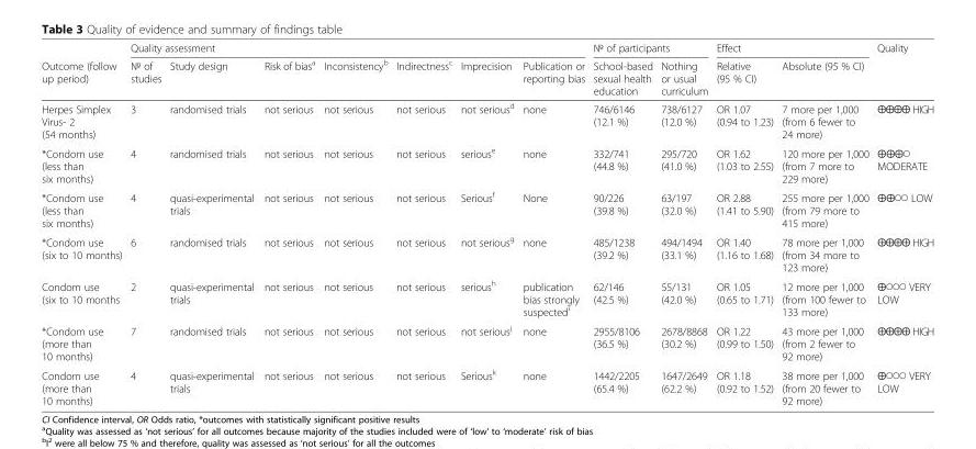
<table><thead><tr><td rowspan="2">Outcome (follow up period)</td><td colspan="7">Quality assessment</td><td colspan="2">№ of participants</td><td colspan="2">Effect</td><td rowspan="2">Quality</td></tr><tr><td>№ of studies</td><td>Study design</td><td>Risk of bias<sup>a</sup></td><td>Inconsistency<sup>b</sup></td><td>Indirectness<sup>c</sup></td><td>Imprecision</td><td>Publication or reporting bias</td><td>School-based sexual health education</td><td>Nothing or usual curriculum</td><td>Relative (95 % CI)</td><td>Absolute (95 % CI)</td></tr></thead><tbody><tr><td>Herpes Simplex Virus- 2 (54 months)</td><td>3</td><td>randomised trials</td><td>not serious</td><td>not serious</td><td>not serious</td><td>not serious<sup>d</sup></td><td>none</td><td>746/6146 (12.1 %)</td><td>738/6127 (12.0 %)</td><td>OR 1.07 (0.94 to 1.23)</td><td>7 more per 1,000 (from 6 fewer to 24 more)</td><td>⨁⨁⨁⨁ HIGH</td></tr><tr><td>*Condom use (less than six months)</td><td>4</td><td>randomised trials</td><td>not serious</td><td>not serious</td><td>not serious</td><td>serious<sup>e</sup></td><td>none</td><td>332/741 (44.8 %)</td><td>295/720 (41.0 %)</td><td>OR 1.62 (1.03 to 2.55)</td><td>120 more per 1,000 (from 7 more to 229 more)</td><td>⨁⨁⨁◯ MODERATE</td></tr><tr><td>*Condom use (less than six months)</td><td>4</td><td>quasi-experimental trials</td><td>not serious</td><td>not serious</td><td>not serious</td><td>Serious<sup>f</sup></td><td>None</td><td>90/226 (39.8 %)</td><td>63/197 (32.0 %)</td><td>OR 2.88 (1.41 to 5.90)</td><td>255 more per 1,000 (from 79 more to 415 more)</td><td>⨁⨁◯◯ LOW</td></tr><tr><td>*Condom use (six to 10 months)</td><td>6</td><td>randomised trials</td><td>not serious</td><td>not serious</td><td>not serious</td><td>not serious<sup>g</sup></td><td>none</td><td>485/1238 (39.2 %)</td><td>494/1494 (33.1 %)</td><td>OR 1.40 (1.16 to 1.68)</td><td>78 more per 1,000 (from 34 more to 123 more)</td><td>⨁⨁⨁⨁ HIGH</td></tr><tr><td>Condom use (six to 10 months</td><td>2</td><td>quasi-experimental trials</td><td>not serious</td><td>not serious</td><td>not serious</td><td>serious<sup>h</sup></td><td>publication bias strongly suspected<sup>i</sup></td><td>62/146 (42.5 %)</td><td>55/131 (42.0 %)</td><td>OR 1.05 (0.65 to 1.71)</td><td>12 more per 1,000 (from 100 fewer to 133 more)</td><td>⨁◯◯◯ VERY LOW</td></tr><tr><td>*Condom use (more than 10 months)</td><td>7</td><td>randomised trials</td><td>not serious</td><td>not serious</td><td>not serious</td><td>not serious<sup>j</sup></td><td>none</td><td>2955/8106 (36.5 %)</td><td>2678/8868 (30.2 %)</td><td>OR 1.22 (0.99 to 1.50)</td><td>43 more per 1,000 (from 2 fewer to 92 more)</td><td>⨁⨁⨁⨁ HIGH</td></tr><tr><td>Condom use (more than 10 months)</td><td>4</td><td>quasi-experimental trials</td><td>not serious</td><td>not serious</td><td>not serious</td><td>Serious<sup>k</sup></td><td>none</td><td>1442/2205 (65.4 %)</td><td>1647/2649 (62.2 %)</td><td>OR 1.18 (0.92 to 1.52)</td><td>38 more per 1,000 (from 20 fewer to 92 more)</td><td>⨁◯◯◯ VERY LOW</td></tr></tbody></table>